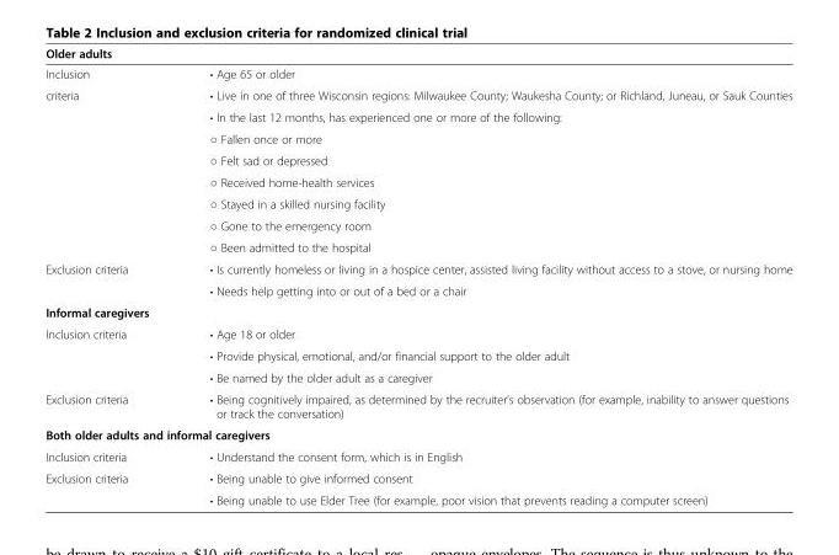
<table><thead><tr><td colspan="2">Older adults</td></tr><tr><td>Inclusion</td><td>• Age 65 or older</td></tr></thead><tbody><tr><td rowspan="8">criteria</td><td>• Live in one of three Wisconsin regions: Milwaukee County; Waukesha County; or Richland, Juneau, or Sauk Counties</td></tr><tr><td>• In the last 12 months, has experienced one or more of the following:</td></tr><tr><td>○ Fallen once or more</td></tr><tr><td>○ Felt sad or depressed</td></tr><tr><td>○ Received home-health services</td></tr><tr><td>○ Stayed in a skilled nursing facility</td></tr><tr><td>○ Gone to the emergency room</td></tr><tr><td>○ Been admitted to the hospital</td></tr><tr><td rowspan="2">Exclusion criteria</td><td>• Is currently homeless or living in a hospice center, assisted living facility without access to a stove, or nursing home</td></tr><tr><td>• Needs help getting into or out of a bed or a chair</td></tr><tr><td colspan="2">Informal caregivers</td></tr><tr><td rowspan="3">Inclusion criteria</td><td>• Age 18 or older</td></tr><tr><td>• Provide physical, emotional, and/or financial support to the older adult</td></tr><tr><td>• Be named by the older adult as a caregiver</td></tr><tr><td>Exclusion criteria</td><td>• Being cognitively impaired, as determined by the recruiter’s observation (for example, inability to answer questions or track the conversation)</td></tr><tr><td colspan="2">Both older adults and informal caregivers</td></tr><tr><td>Inclusion criteria</td><td>• Understand the consent form, which is in English</td></tr><tr><td rowspan="2">Exclusion criteria</td><td>• Being unable to give informed consent</td></tr><tr><td>• Being unable to use Elder Tree (for example, poor vision that prevents reading a computer screen)</td></tr></tbody></table>